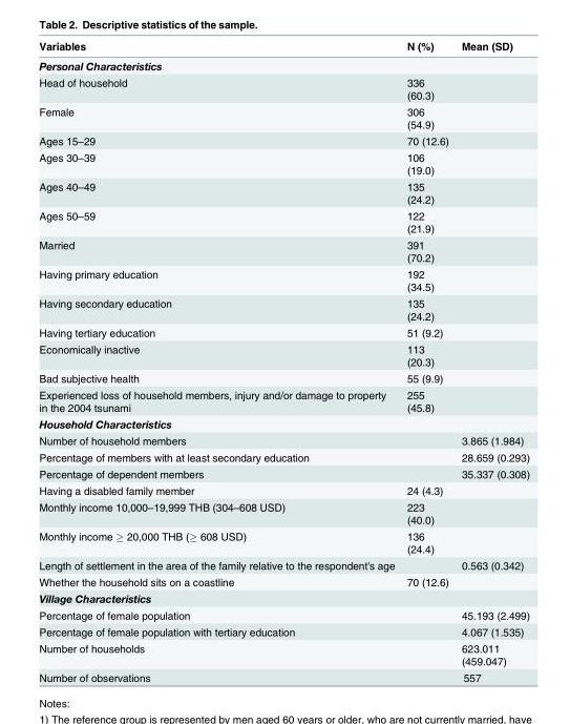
<table><thead><tr><td>Variables</td><td>N (%)</td><td>Mean (SD)</td></tr></thead><tbody><tr><td colspan="3">Personal Characteristics</td></tr><tr><td>Head of household</td><td>336 (60.3)</td><td></td></tr><tr><td>Female</td><td>306 (54.9)</td><td></td></tr><tr><td>Ages 15–29</td><td>70 (12.6)</td><td></td></tr><tr><td>Ages 30–39</td><td>106 (19.0)</td><td></td></tr><tr><td>Ages 40–49</td><td>135 (24.2)</td><td></td></tr><tr><td>Ages 50–59</td><td>122 (21.9)</td><td></td></tr><tr><td>Married</td><td>391 (70.2)</td><td></td></tr><tr><td>Having primary education</td><td>192 (34.5)</td><td></td></tr><tr><td>Having secondary education</td><td>135 (24.2)</td><td></td></tr><tr><td>Having tertiary education</td><td>51 (9.2)</td><td></td></tr><tr><td>Economically inactive</td><td>113 (20.3)</td><td></td></tr><tr><td>Bad subjective health</td><td>55 (9.9)</td><td></td></tr><tr><td>Experienced loss of household members, injury and/or damage to property in the 2004 tsunami</td><td>255 (45.8)</td><td></td></tr><tr><td colspan="3">Household Characteristics</td></tr><tr><td>Number of household members</td><td></td><td>3.865 (1.984)</td></tr><tr><td>Percentage of members with at least secondary education</td><td></td><td>28.659 (0.293)</td></tr><tr><td>Percentage of dependent members</td><td></td><td>35.337 (0.308)</td></tr><tr><td>Having a disabled family member</td><td>24 (4.3)</td><td></td></tr><tr><td>Monthly income 10,000–19,999 THB (304–608 USD)</td><td>223 (40.0)</td><td></td></tr><tr><td>Monthly income ≥ 20,000 THB (≥ 608 USD)</td><td>136 (24.4)</td><td></td></tr><tr><td>Length of settlement in the area of the family relative to the respondent&#x27;s age</td><td></td><td>0.563 (0.342)</td></tr><tr><td>Whether the household sits on a coastline</td><td>70 (12.6)</td><td></td></tr><tr><td colspan="3">Village Characteristics</td></tr><tr><td>Percentage of female population</td><td></td><td>45.193 (2.499)</td></tr><tr><td>Percentage of female population with tertiary education</td><td></td><td>4.067 (1.535)</td></tr><tr><td>Number of households</td><td></td><td>623.011 (459.047)</td></tr><tr><td>Number of observations</td><td colspan="2">557</td></tr></tbody></table>